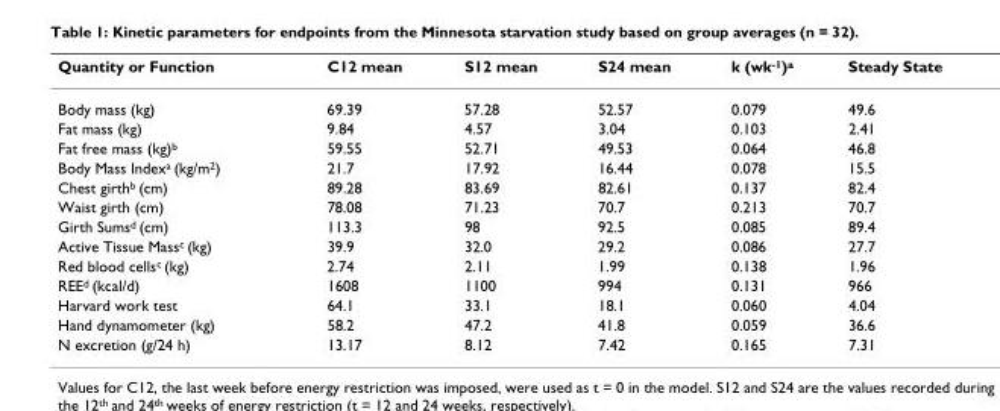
<table><thead><tr><td>Quantity or Function</td><td>C12 mean</td><td>S12 mean</td><td>S24 mean</td><td>k (wk<sup>-1</sup>)<sup>a</sup></td><td>Steady State</td></tr></thead><tbody><tr><td>Body mass (kg)</td><td>69.39</td><td>57.28</td><td>52.57</td><td>0.079</td><td>49.6</td></tr><tr><td>Fat mass (kg)</td><td>9.84</td><td>4.57</td><td>3.04</td><td>0.103</td><td>2.41</td></tr><tr><td>Fat free mass (kg)<sup>b</sup></td><td>59.55</td><td>52.71</td><td>49.53</td><td>0.064</td><td>46.8</td></tr><tr><td>Body Mass Index<sup>a</sup> (kg/m<sup>2</sup>)</td><td>21.7</td><td>17.92</td><td>16.44</td><td>0.078</td><td>15.5</td></tr><tr><td>Chest girth<sup>b</sup> (cm)</td><td>89.28</td><td>83.69</td><td>82.61</td><td>0.137</td><td>82.4</td></tr><tr><td>Waist girth (cm)</td><td>78.08</td><td>71.23</td><td>70.7</td><td>0.213</td><td>70.7</td></tr><tr><td>Girth Sums<sup>d</sup> (cm)</td><td>113.3</td><td>98</td><td>92.5</td><td>0.085</td><td>89.4</td></tr><tr><td>Active Tissue Mass<sup>c</sup> (kg)</td><td>39.9</td><td>32.0</td><td>29.2</td><td>0.086</td><td>27.7</td></tr><tr><td>Red blood cells<sup>c</sup> (kg)</td><td>2.74</td><td>2.11</td><td>1.99</td><td>0.138</td><td>1.96</td></tr><tr><td>REE<sup>d</sup> (kcal/d)</td><td>1608</td><td>1100</td><td>994</td><td>0.131</td><td>966</td></tr><tr><td>Harvard work test</td><td>64.1</td><td>33.1</td><td>18.1</td><td>0.060</td><td>4.04</td></tr><tr><td>Hand dynamometer (kg)</td><td>58.2</td><td>47.2</td><td>41.8</td><td>0.059</td><td>36.6</td></tr><tr><td>N excretion (g/24 h)</td><td>13.17</td><td>8.12</td><td>7.42</td><td>0.165</td><td>7.31</td></tr></tbody></table>